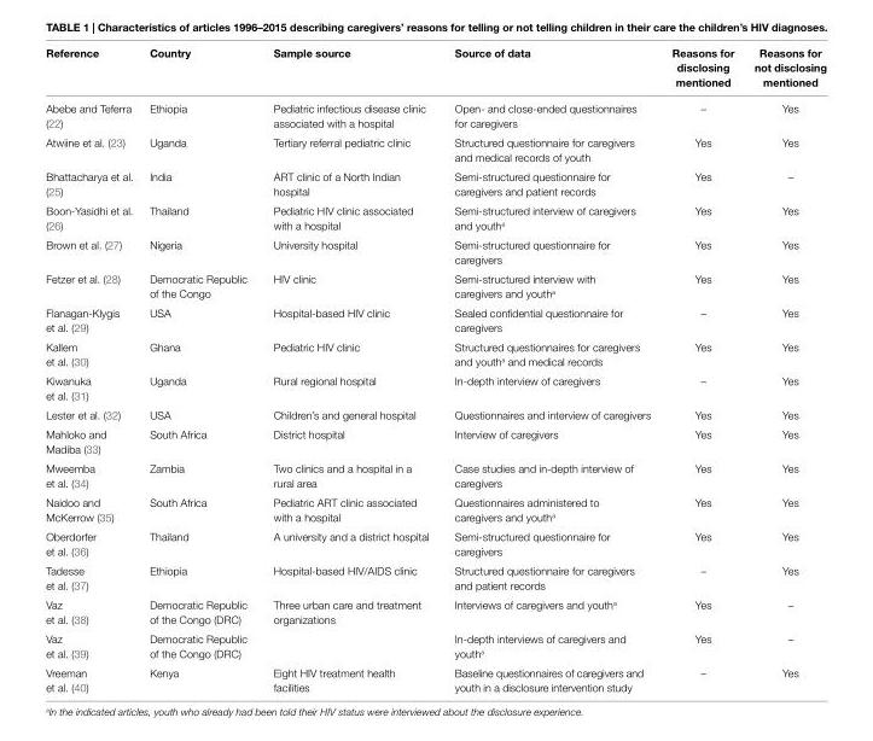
<table><thead><tr><td>Reference</td><td>Country</td><td>Sample source</td><td>Source of data</td><td>Reasons for disclosing mentioned</td><td>Reasons for not disclosing mentioned</td></tr></thead><tbody><tr><td>Abebe and Teferra (22)</td><td>Ethiopia</td><td>Pediatric infectious disease clinic associated with a hospital</td><td>Open- and close-ended questionnaires for caregivers</td><td>–</td><td>Yes</td></tr><tr><td>Atwiine et al. (23)</td><td>Uganda</td><td>Tertiary referral pediatric clinic</td><td>Structured questionnaire for caregivers and medical records of youth</td><td>Yes</td><td>Yes</td></tr><tr><td>Bhattacharya et al. (25)</td><td>India</td><td>ART clinic of a North Indian hospital</td><td>Semi-structured questionnaire for caregivers and patient records</td><td>Yes</td><td>–</td></tr><tr><td>Boon-Yasidhi et al. (26)</td><td>Thailand</td><td>Pediatric HIV clinic associated with a hospital</td><td>Semi-structured interview of caregivers and youth<sup>a</sup></td><td>Yes</td><td>Yes</td></tr><tr><td>Brown et al. (27)</td><td>Nigeria</td><td>University hospital</td><td>Semi-structured questionnaire for caregivers</td><td>Yes</td><td>Yes</td></tr><tr><td>Fetzer et al. (28)</td><td>Democratic Republic of the Congo</td><td>HIV clinic</td><td>Semi-structured interview with caregivers and youth<sup>a</sup></td><td>Yes</td><td>Yes</td></tr><tr><td>Flanagan-Klygis et al. (29)</td><td>USA</td><td>Hospital-based HIV clinic</td><td>Sealed confidential questionnaire for caregivers</td><td>–</td><td>Yes</td></tr><tr><td>Kallem et al. (30)</td><td>Ghana</td><td>Pediatric HIV clinic</td><td>Structured questionnaires for caregivers and youth<sup>a</sup> and medical records</td><td>Yes</td><td>Yes</td></tr><tr><td>Kiwanuka et al. (31)</td><td>Uganda</td><td>Rural regional hospital</td><td>In-depth interview of caregivers</td><td>–</td><td>Yes</td></tr><tr><td>Lester et al. (32)</td><td>USA</td><td>Children’s and general hospital</td><td>Questionnaires and interview of caregivers</td><td>Yes</td><td>Yes</td></tr><tr><td>Mahloko and Madiba (33)</td><td>South Africa</td><td>District hospital</td><td>Interview of caregivers</td><td>Yes</td><td>Yes</td></tr><tr><td>Mweemba et al. (34)</td><td>Zambia</td><td>Two clinics and a hospital in a rural area</td><td>Case studies and in-depth interview of caregivers</td><td>Yes</td><td>Yes</td></tr><tr><td>Naidoo and McKerrow (35)</td><td>South Africa</td><td>Pediatric ART clinic associated with a hospital</td><td>Questionnaires administered to caregivers and youth<sup>a</sup></td><td>Yes</td><td>Yes</td></tr><tr><td>Oberdorfer et al. (36)</td><td>Thailand</td><td>A university and a district hospital</td><td>Semi-structured questionnaire for caregivers</td><td>Yes</td><td>Yes</td></tr><tr><td>Tadesse et al. (37)</td><td>Ethiopia</td><td>Hospital-based HIV/AIDS clinic</td><td>Structured questionnaire for caregivers and patient records</td><td>–</td><td>Yes</td></tr><tr><td>Vaz et al. (38)</td><td>Democratic Republic of the Congo (DRC)</td><td>Three urban care and treatment organizations</td><td>Interviews of caregivers and youth<sup>a</sup></td><td>Yes</td><td>–</td></tr><tr><td>Vaz et al. (39)</td><td>Democratic Republic of the Congo (DRC)</td><td></td><td>In-depth interviews of caregivers and youth<sup>a</sup></td><td>Yes</td><td>–</td></tr><tr><td>Vreeman et al. (40)</td><td>Kenya</td><td>Eight HIV treatment health facilities</td><td>Baseline questionnaires of caregivers and youth in a disclosure intervention study</td><td>–</td><td>Yes</td></tr></tbody></table>